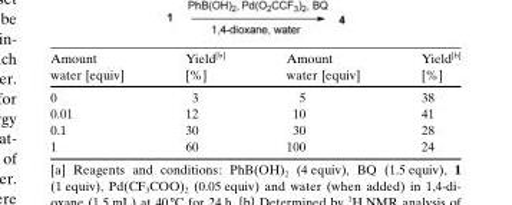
<table><thead><tr><td>Amount water [equiv]</td><td>Yield<sup>[b]</sup> [%]</td><td>Amount water [equiv]</td><td>Yield<sup>[b]</sup> [%]</td></tr></thead><tbody><tr><td>0</td><td>3</td><td>5</td><td>38</td></tr><tr><td>0.01</td><td>12</td><td>10</td><td>41</td></tr><tr><td>0.1</td><td>30</td><td>30</td><td>28</td></tr><tr><td>1</td><td>60</td><td>100</td><td>24</td></tr></tbody></table>